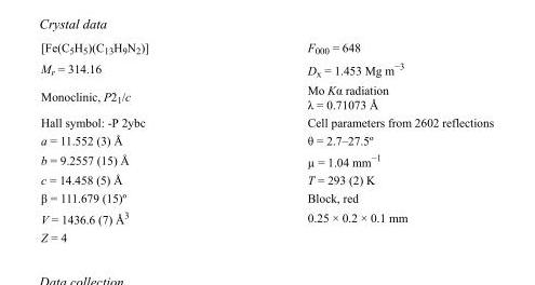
<table><tbody><tr><td>[Fe(C<sub>5</sub>H<sub>5</sub>)(C<sub>13</sub>H<sub>9</sub>N<sub>2</sub>)]</td><td>F<sub>000</sub> = 648</td></tr><tr><td>M<sub>r</sub> = 314.16</td><td>D<sub>x</sub> = 1.453 Mg m<sup>−3</sup></td></tr><tr><td>Monoclinic, P2<sub>1</sub>/c</td><td>Mo Kα radiation λ = 0.71073 Å</td></tr><tr><td>Hall symbol: -P 2ybc</td><td>Cell parameters from 2602 reflections</td></tr><tr><td>a = 11.552 (3) Å</td><td>θ = 2.7–27.5º</td></tr><tr><td>b = 9.2557 (15) Å</td><td>µ = 1.04 mm<sup>−1</sup></td></tr><tr><td>c = 14.458 (5) Å</td><td>T = 293 (2) K</td></tr><tr><td>β = 111.679 (15)º</td><td>Block, red</td></tr><tr><td>V = 1436.6 (7) Å<sup>3</sup></td><td>0.25 × 0.2 × 0.1 mm</td></tr><tr><td>Z = 4</td><td></td></tr></tbody></table>